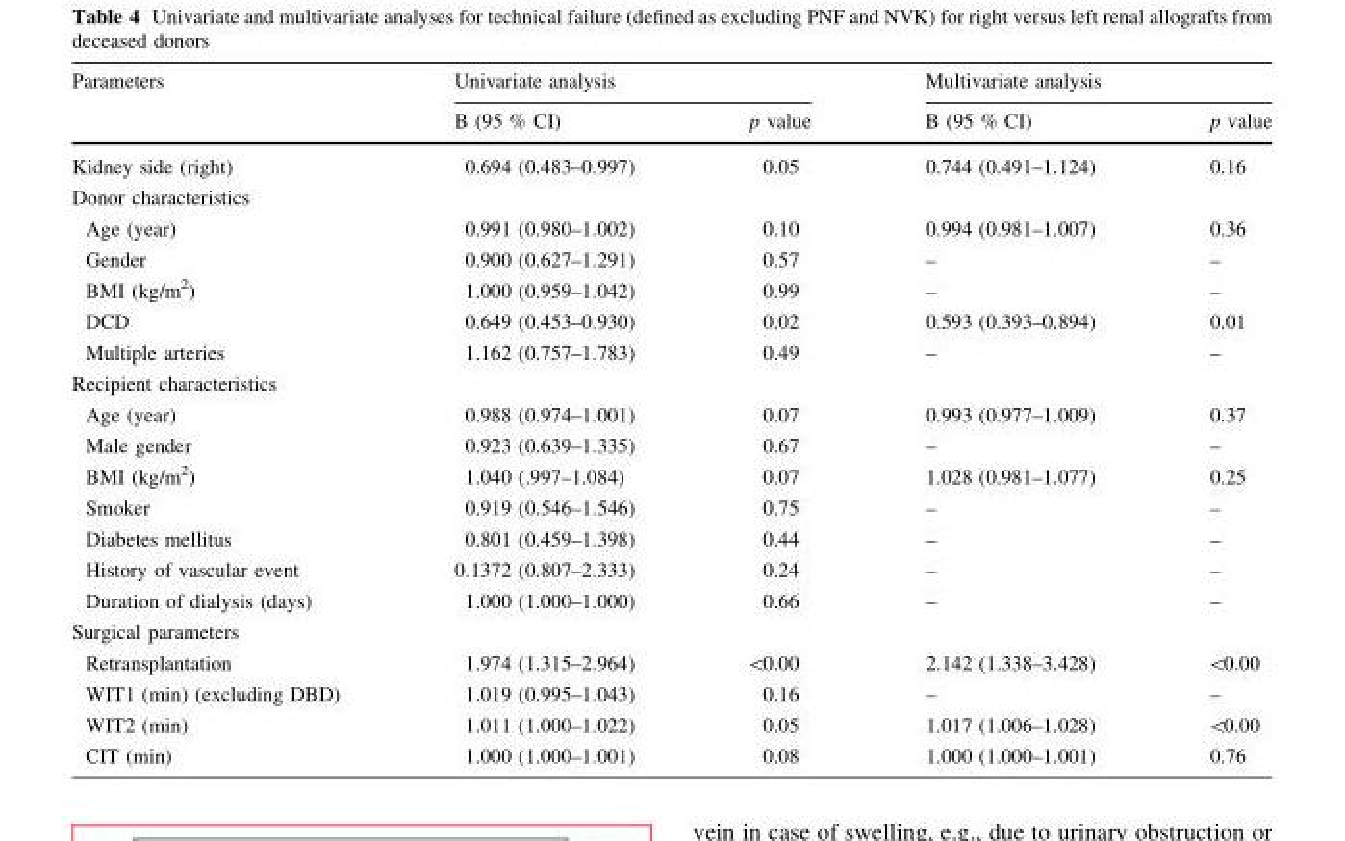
<table><thead><tr><td rowspan="2">Parameters</td><td colspan="2">Univariate analysis</td><td colspan="2">Multivariate analysis</td></tr><tr><td>B (95 % CI)</td><td>p value</td><td>B (95 % CI)</td><td>p value</td></tr></thead><tbody><tr><td>Kidney side (right)</td><td>0.694 (0.483–0.997)</td><td>0.05</td><td>0.744 (0.491–1.124)</td><td>0.16</td></tr><tr><td colspan="5">Donor characteristics</td></tr><tr><td>Age (year)</td><td>0.991 (0.980–1.002)</td><td>0.10</td><td>0.994 (0.981–1.007)</td><td>0.36</td></tr><tr><td>Gender</td><td>0.900 (0.627–1.291)</td><td>0.57</td><td>–</td><td>–</td></tr><tr><td>BMI (kg/m<sup>2</sup>)</td><td>1.000 (0.959–1.042)</td><td>0.99</td><td>–</td><td>–</td></tr><tr><td>DCD</td><td>0.649 (0.453–0.930)</td><td>0.02</td><td>0.593 (0.393–0.894)</td><td>0.01</td></tr><tr><td>Multiple arteries</td><td>1.162 (0.757–1.783)</td><td>0.49</td><td>–</td><td>–</td></tr><tr><td colspan="5">Recipient characteristics</td></tr><tr><td>Age (year)</td><td>0.988 (0.974–1.001)</td><td>0.07</td><td>0.993 (0.977–1.009)</td><td>0.37</td></tr><tr><td>Male gender</td><td>0.923 (0.639–1.335)</td><td>0.67</td><td>–</td><td>–</td></tr><tr><td>BMI (kg/m<sup>2</sup>)</td><td>1.040 (.997–1.084)</td><td>0.07</td><td>1.028 (0.981–1.077)</td><td>0.25</td></tr><tr><td>Smoker</td><td>0.919 (0.546–1.546)</td><td>0.75</td><td>–</td><td>–</td></tr><tr><td>Diabetes mellitus</td><td>0.801 (0.459–1.398)</td><td>0.44</td><td>–</td><td>–</td></tr><tr><td>History of vascular event</td><td>0.1372 (0.807–2.333)</td><td>0.24</td><td>–</td><td>–</td></tr><tr><td>Duration of dialysis (days)</td><td>1.000 (1.000–1.000)</td><td>0.66</td><td>–</td><td>–</td></tr><tr><td colspan="5">Surgical parameters</td></tr><tr><td>Retransplantation</td><td>1.974 (1.315–2.964)</td><td>&lt;0.00</td><td>2.142 (1.338–3.428)</td><td>&lt;0.00</td></tr><tr><td>WIT1 (min) (excluding DBD)</td><td>1.019 (0.995–1.043)</td><td>0.16</td><td>–</td><td>–</td></tr><tr><td>WIT2 (min)</td><td>1.011 (1.000–1.022)</td><td>0.05</td><td>1.017 (1.006–1.028)</td><td>&lt;0.00</td></tr><tr><td>CIT (min)</td><td>1.000 (1.000–1.001)</td><td>0.08</td><td>1.000 (1.000–1.001)</td><td>0.76</td></tr></tbody></table>